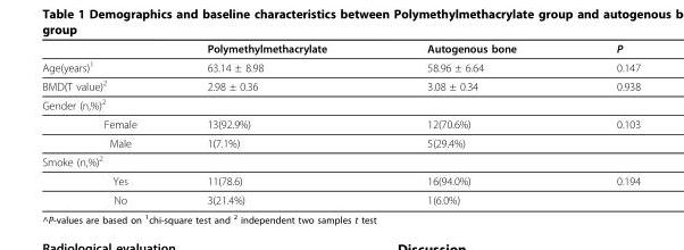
<table><thead><tr><td></td><td>Polymethylmethacrylate</td><td>Autogenous bone</td><td>P</td></tr></thead><tbody><tr><td>Age(years)<sup>1</sup></td><td>63.14 ± 8.98</td><td>58.96 ± 6.64</td><td>0.147</td></tr><tr><td>BMD(T value)<sup>2</sup></td><td>2.98 ± 0.36</td><td>3.08 ± 0.34</td><td>0.938</td></tr><tr><td colspan="4">Gender (n,%)<sup>2</sup></td></tr><tr><td>Female</td><td>13(92.9%)</td><td>12(70.6%)</td><td>0.103</td></tr><tr><td>Male</td><td>1(7.1%)</td><td>5(29.4%)</td><td></td></tr><tr><td colspan="4">Smoke (n,%)<sup>2</sup></td></tr><tr><td>Yes</td><td>11(78.6)</td><td>16(94.0%)</td><td>0.194</td></tr><tr><td>No</td><td>3(21.4%)</td><td>1(6.0%)</td><td></td></tr></tbody></table>